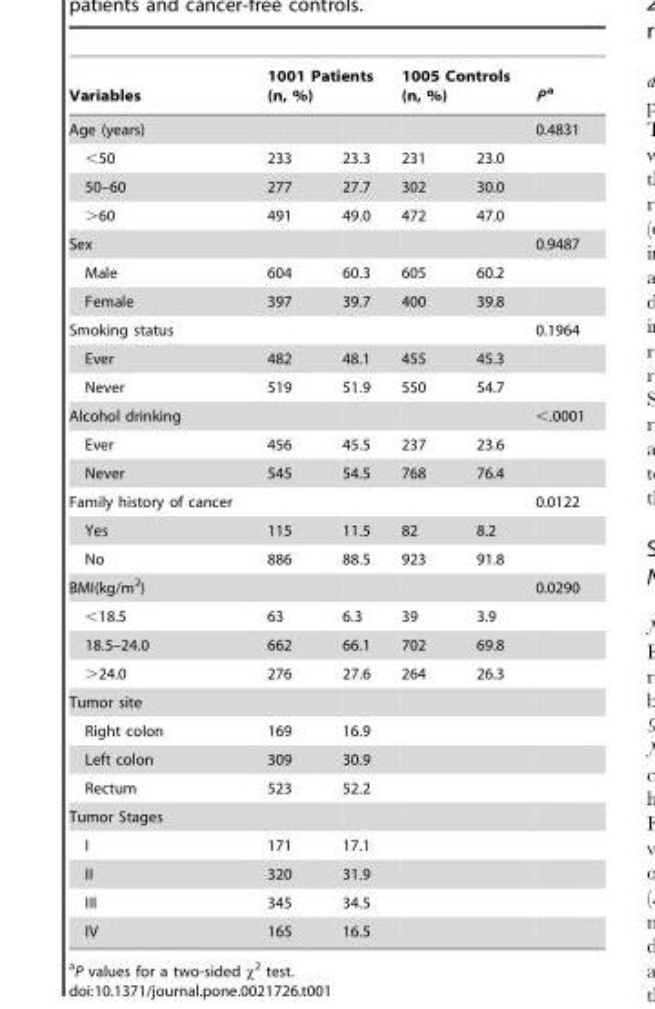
<table><thead><tr><td rowspan="2">Variables Age (years)</td><td colspan="2">1001 Patients (n, %)</td><td colspan="2">1005 Controls (n, %)</td><td rowspan="2">P a 0.4831</td></tr><tr><td></td><td></td><td></td><td></td></tr></thead><tbody><tr><td>&lt;50</td><td>233</td><td>23.3</td><td>231</td><td>23.0</td><td></td></tr><tr><td>50–60</td><td>277</td><td>27.7</td><td>302</td><td>30.0</td><td></td></tr><tr><td>&gt;60</td><td>491</td><td>49.0</td><td>472</td><td>47.0</td><td></td></tr><tr><td>Sex</td><td></td><td></td><td></td><td></td><td>0.9487</td></tr><tr><td>Male</td><td>604</td><td>60.3</td><td>605</td><td>60.2</td><td></td></tr><tr><td>Female</td><td>397</td><td>39.7</td><td>400</td><td>39.8</td><td></td></tr><tr><td>Smoking status</td><td></td><td></td><td></td><td></td><td>0.1964</td></tr><tr><td>Ever</td><td>482</td><td>48.1</td><td>455</td><td>45.3</td><td></td></tr><tr><td>Never</td><td>519</td><td>51.9</td><td>550</td><td>54.7</td><td></td></tr><tr><td>Alcohol drinking</td><td></td><td></td><td></td><td></td><td>&lt;.0001</td></tr><tr><td>Ever</td><td>456</td><td>45.5</td><td>237</td><td>23.6</td><td></td></tr><tr><td>Never</td><td>545</td><td>54.5</td><td>768</td><td>76.4</td><td></td></tr><tr><td>Family history of cancer</td><td></td><td></td><td></td><td></td><td>0.0122</td></tr><tr><td>Yes</td><td>115</td><td>11.5</td><td>82</td><td>8.2</td><td></td></tr><tr><td>No</td><td>886</td><td>88.5</td><td>923</td><td>91.8</td><td></td></tr><tr><td>BMI(kg/m<sup>2</sup>)</td><td></td><td></td><td></td><td></td><td>0.0290</td></tr><tr><td>&lt;18.5</td><td>63</td><td>6.3</td><td>39</td><td>3.9</td><td></td></tr><tr><td>18.5–24.0</td><td>662</td><td>66.1</td><td>702</td><td>69.8</td><td></td></tr><tr><td>&gt;24.0</td><td>276</td><td>27.6</td><td>264</td><td>26.3</td><td></td></tr><tr><td colspan="6">Tumor site</td></tr><tr><td>Right colon</td><td>169</td><td>16.9</td><td></td><td></td><td></td></tr><tr><td>Left colon</td><td>309</td><td>30.9</td><td></td><td></td><td></td></tr><tr><td>Rectum</td><td>523</td><td>52.2</td><td></td><td></td><td></td></tr><tr><td colspan="6">Tumor Stages</td></tr><tr><td>I</td><td>171</td><td>17.1</td><td></td><td></td><td></td></tr><tr><td>II</td><td>320</td><td>31.9</td><td></td><td></td><td></td></tr><tr><td>III</td><td>345</td><td>34.5</td><td></td><td></td><td></td></tr><tr><td>IV</td><td>165</td><td>16.5</td><td></td><td></td><td></td></tr></tbody></table>